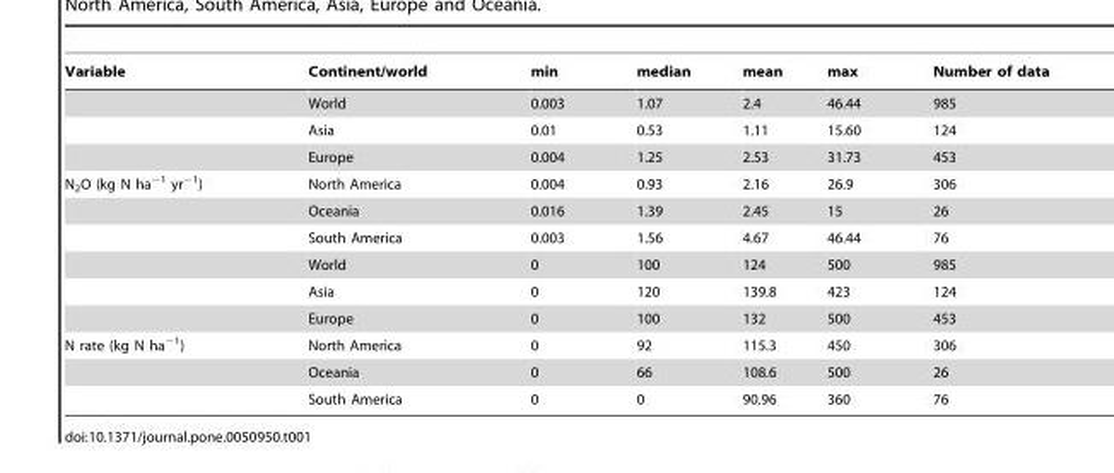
<table><thead><tr><td>Variable</td><td>Continent/world</td><td>min</td><td>median</td><td>mean</td><td>max</td><td>Number of data</td></tr></thead><tbody><tr><td></td><td>World</td><td>0.003</td><td>1.07</td><td>2.4</td><td>46.44</td><td>985</td></tr><tr><td></td><td>Asia</td><td>0.01</td><td>0.53</td><td>1.11</td><td>15.60</td><td>124</td></tr><tr><td></td><td>Europe</td><td>0.004</td><td>1.25</td><td>2.53</td><td>31.73</td><td>453</td></tr><tr><td rowspan="6">N<sub>2</sub>O (kg N ha<sup>−1</sup> yr<sup>−1</sup>)</td><td>North America</td><td>0.004</td><td>0.93</td><td>2.16</td><td>26.9</td><td>306</td></tr><tr><td>Oceania</td><td>0.016</td><td>1.39</td><td>2.45</td><td>15</td><td>26</td></tr><tr><td>South America</td><td>0.003</td><td>1.56</td><td>4.67</td><td>46.44</td><td>76</td></tr><tr><td>World</td><td>0</td><td>100</td><td>124</td><td>500</td><td>985</td></tr><tr><td>Asia</td><td>0</td><td>120</td><td>139.8</td><td>423</td><td>124</td></tr><tr><td>Europe</td><td>0</td><td>100</td><td>132</td><td>500</td><td>453</td></tr><tr><td rowspan="3">N rate (kg N ha<sup>−1</sup>)</td><td>North America</td><td>0</td><td>92</td><td>115.3</td><td>450</td><td>306</td></tr><tr><td>Oceania</td><td>0</td><td>66</td><td>108.6</td><td>500</td><td>26</td></tr><tr><td>South America</td><td>0</td><td>0</td><td>90.96</td><td>360</td><td>76</td></tr></tbody></table>